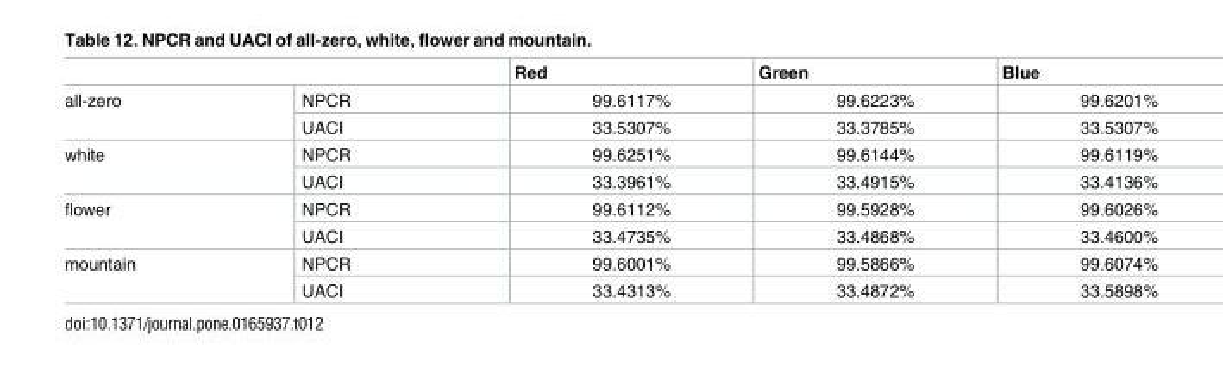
<table><thead><tr><td></td><td></td><td>Red</td><td>Green</td><td>Blue</td></tr></thead><tbody><tr><td rowspan="2">all-zero</td><td>NPCR</td><td>99.6117%</td><td>99.6223%</td><td>99.6201%</td></tr><tr><td>UACI</td><td>33.5307%</td><td>33.3785%</td><td>33.5307%</td></tr><tr><td rowspan="2">white</td><td>NPCR</td><td>99.6251%</td><td>99.6144%</td><td>99.6119%</td></tr><tr><td>UACI</td><td>33.3961%</td><td>33.4915%</td><td>33.4136%</td></tr><tr><td rowspan="2">flower</td><td>NPCR</td><td>99.6112%</td><td>99.5928%</td><td>99.6026%</td></tr><tr><td>UACI</td><td>33.4735%</td><td>33.4868%</td><td>33.4600%</td></tr><tr><td rowspan="2">mountain</td><td>NPCR</td><td>99.6001%</td><td>99.5866%</td><td>99.6074%</td></tr><tr><td>UACI</td><td>33.4313%</td><td>33.4872%</td><td>33.5898%</td></tr></tbody></table>